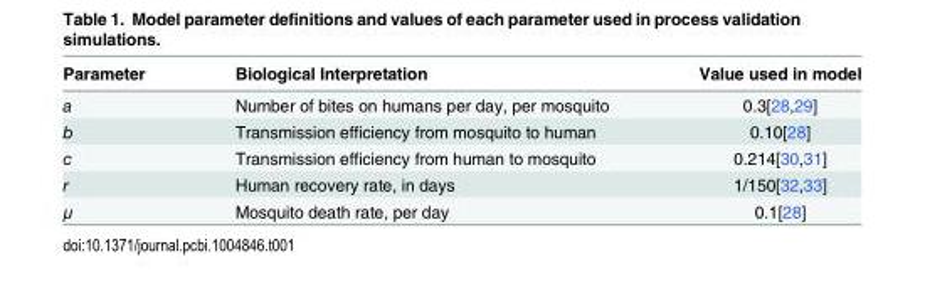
<table><thead><tr><td>Parameter</td><td>Biological Interpretation</td><td>Value used in model</td></tr></thead><tbody><tr><td>a</td><td>Number of bites on humans per day, per mosquito</td><td>0.3[28,29]</td></tr><tr><td>b</td><td>Transmission efficiency from mosquito to human</td><td>0.10[28]</td></tr><tr><td>c</td><td>Transmission efficiency from human to mosquito</td><td>0.214[30,31]</td></tr><tr><td>r</td><td>Human recovery rate, in days</td><td>1/150[32,33]</td></tr><tr><td>μ</td><td>Mosquito death rate, per day</td><td>0.1[28]</td></tr></tbody></table>